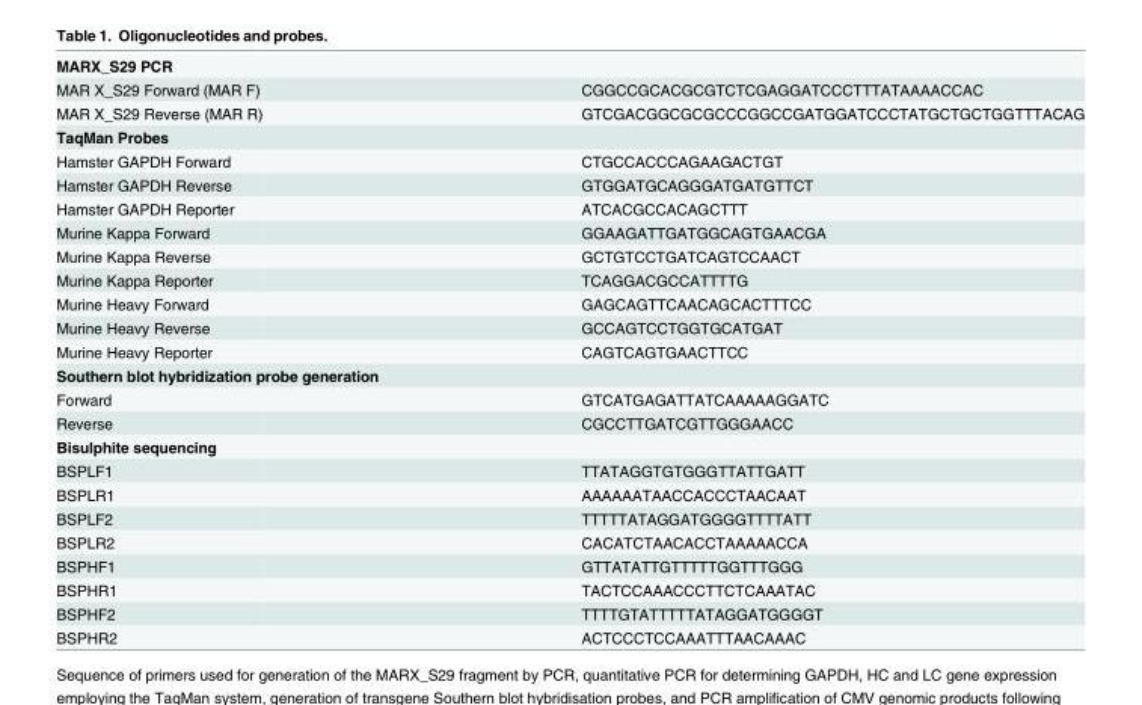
<table><tbody><tr><td colspan="2">MARX_S29 PCR</td></tr><tr><td>MAR X_S29 Forward (MAR F)</td><td>CGGCCGCACGCGTCTCGAGGATCCCTTTATAAAACCAC</td></tr><tr><td>MAR X_S29 Reverse (MAR R)</td><td>GTCGACGGCGCGCCCGGCCGATGGATCCCTATGCTGCTGGTTTACAG</td></tr><tr><td colspan="2">TaqMan Probes</td></tr><tr><td>Hamster GAPDH Forward</td><td>CTGCCACCCAGAAGACTGT</td></tr><tr><td>Hamster GAPDH Reverse</td><td>GTGGATGCAGGGATGATGTTCT</td></tr><tr><td>Hamster GAPDH Reporter</td><td>ATCACGCCACAGCTTT</td></tr><tr><td>Murine Kappa Forward</td><td>GGAAGATTGATGGCAGTGAACGA</td></tr><tr><td>Murine Kappa Reverse</td><td>GCTGTCCTGATCAGTCCAACT</td></tr><tr><td>Murine Kappa Reporter</td><td>TCAGGACGCCATTTTG</td></tr><tr><td>Murine Heavy Forward</td><td>GAGCAGTTCAACAGCACTTTCC</td></tr><tr><td>Murine Heavy Reverse</td><td>GCCAGTCCTGGTGCATGAT</td></tr><tr><td>Murine Heavy Reporter</td><td>CAGTCAGTGAACTTCC</td></tr><tr><td colspan="2">Southern blot hybridization probe generation</td></tr><tr><td>Forward</td><td>GTCATGAGATTATCAAAAAGGATC</td></tr><tr><td>Reverse</td><td>CGCCTTGATCGTTGGGAACC</td></tr><tr><td colspan="2">Bisulphite sequencing</td></tr><tr><td>BSPLF1</td><td>TTATAGGTGTGGGTTATTGATT</td></tr><tr><td>BSPLR1</td><td>AAAAAATAACCACCCTAACAAT</td></tr><tr><td>BSPLF2</td><td>TTTTTATAGGATGGGGTTTTATT</td></tr><tr><td>BSPLR2</td><td>CACATCTAACACCTAAAAACCA</td></tr><tr><td>BSPHF1</td><td>GTTATATTGTTTTTGGTTTGGG</td></tr><tr><td>BSPHR1</td><td>TACTCCAAACCCTTCTCAAATAC</td></tr><tr><td>BSPHF2</td><td>TTTTGTATTTTTATAGGATGGGGT</td></tr><tr><td>BSPHR2</td><td>ACTCCCTCCAAATTTAACAAAC</td></tr></tbody></table>